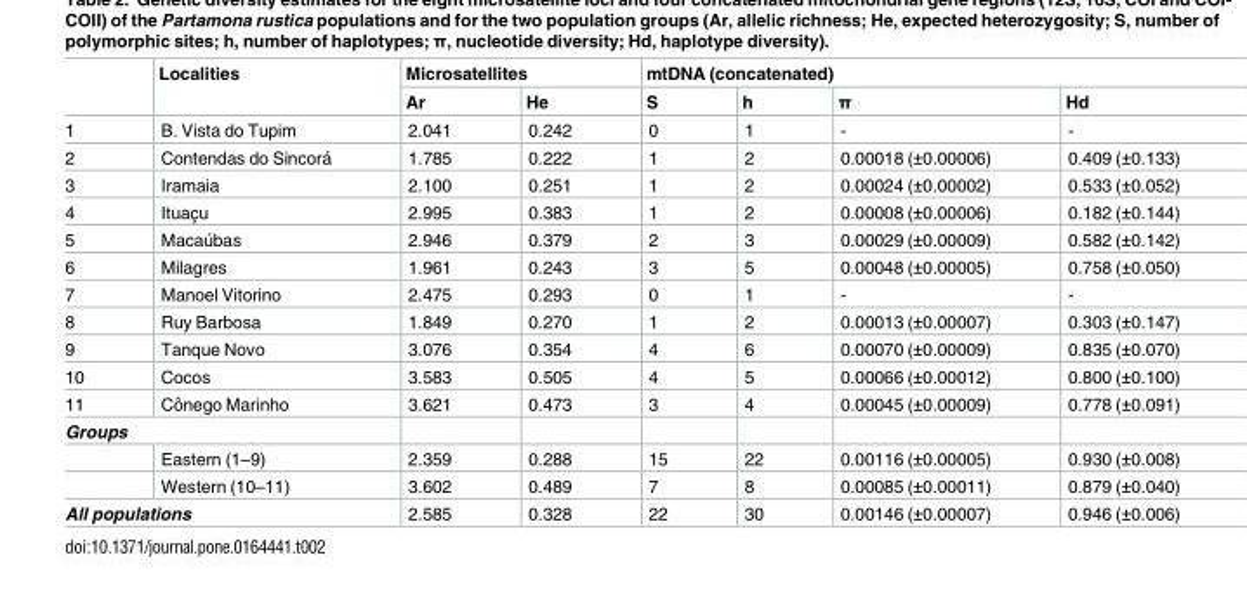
<table><thead><tr><td rowspan="2"></td><td rowspan="2">Localities</td><td colspan="2">Microsatellites</td><td colspan="4">mtDNA (concatenated)</td></tr><tr><td>Ar</td><td>He</td><td>S</td><td>h</td><td>π</td><td>Hd</td></tr></thead><tbody><tr><td>1</td><td>B. Vista do Tupim</td><td>2.041</td><td>0.242</td><td>0</td><td>1</td><td>-</td><td>-</td></tr><tr><td>2</td><td>Contendas do Sincora´</td><td>1.785</td><td>0.222</td><td>1</td><td>2</td><td>0.00018 (±0.00006)</td><td>0.409 (±0.133)</td></tr><tr><td>3</td><td>Iramaia</td><td>2.100</td><td>0.251</td><td>1</td><td>2</td><td>0.00024 (±0.00002)</td><td>0.533 (±0.052)</td></tr><tr><td>4</td><td>Ituac¸u</td><td>2.995</td><td>0.383</td><td>1</td><td>2</td><td>0.00008 (±0.00006)</td><td>0.182 (±0.144)</td></tr><tr><td>5</td><td>Macau´bas</td><td>2.946</td><td>0.379</td><td>2</td><td>3</td><td>0.00029 (±0.00009)</td><td>0.582 (±0.142)</td></tr><tr><td>6</td><td>Milagres</td><td>1.961</td><td>0.243</td><td>3</td><td>5</td><td>0.00048 (±0.00005)</td><td>0.758 (±0.050)</td></tr><tr><td>7</td><td>Manoel Vitorino</td><td>2.475</td><td>0.293</td><td>0</td><td>1</td><td>-</td><td>-</td></tr><tr><td>8</td><td>Ruy Barbosa</td><td>1.849</td><td>0.270</td><td>1</td><td>2</td><td>0.00013 (±0.00007)</td><td>0.303 (±0.147)</td></tr><tr><td>9</td><td>Tanque Novo</td><td>3.076</td><td>0.354</td><td>4</td><td>6</td><td>0.00070 (±0.00009)</td><td>0.835 (±0.070)</td></tr><tr><td>10</td><td>Cocos</td><td>3.583</td><td>0.505</td><td>4</td><td>5</td><td>0.00066 (±0.00012)</td><td>0.800 (±0.100)</td></tr><tr><td>11</td><td>Coˆnego Marinho</td><td>3.621</td><td>0.473</td><td>3</td><td>4</td><td>0.00045 (±0.00009)</td><td>0.778 (±0.091)</td></tr><tr><td colspan="8">Groups</td></tr><tr><td></td><td>Eastern (1–9)</td><td>2.359</td><td>0.288</td><td>15</td><td>22</td><td>0.00116 (±0.00005)</td><td>0.930 (±0.008)</td></tr><tr><td></td><td>Western (10–11)</td><td>3.602</td><td>0.489</td><td>7</td><td>8</td><td>0.00085 (±0.00011)</td><td>0.879 (±0.040)</td></tr><tr><td colspan="2">All populations</td><td>2.585</td><td>0.328</td><td>22</td><td>30</td><td>0.00146 (±0.00007)</td><td>0.946 (±0.006)</td></tr></tbody></table>